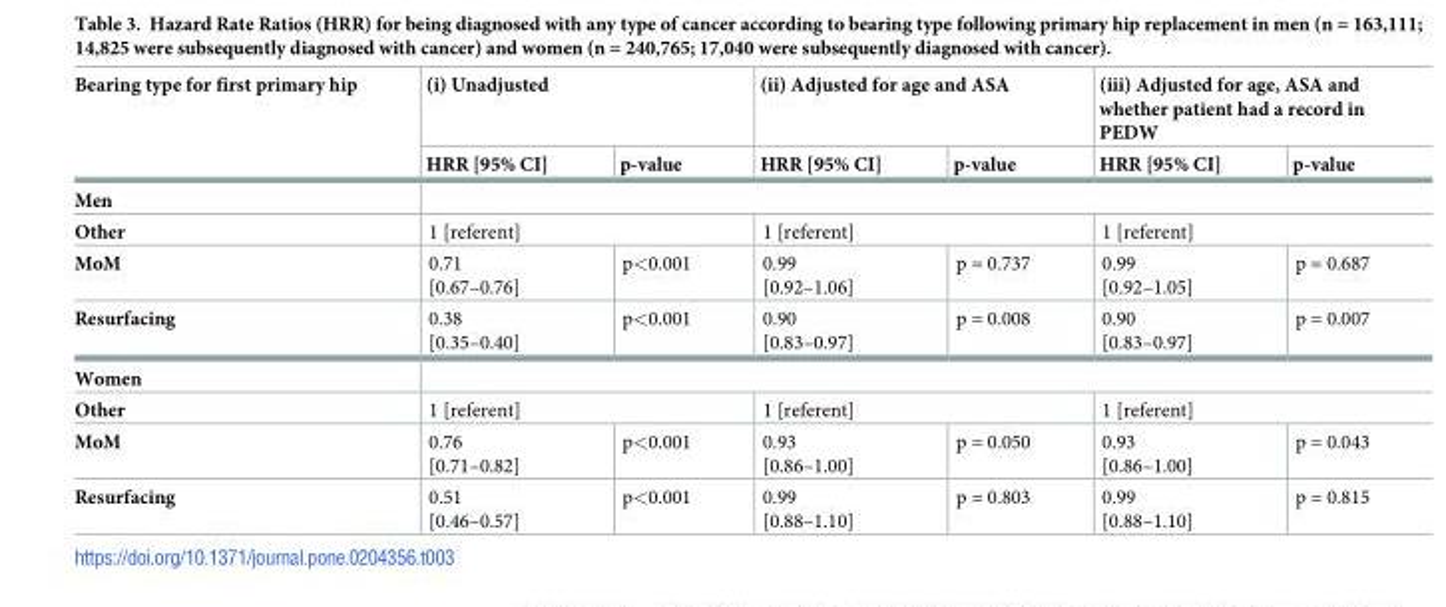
<table><thead><tr><td rowspan="2">Bearing type for first primary hip</td><td colspan="2">(i) Unadjusted</td><td colspan="2">(ii) Adjusted for age and ASA</td><td colspan="2">(iii) Adjusted for age, ASA and whether patient had a record in PEDW</td></tr><tr><td>HRR [95% CI]</td><td>p-value</td><td>HRR [95% CI]</td><td>p-value</td><td>HRR [95% CI]</td><td>p-value</td></tr></thead><tbody><tr><td colspan="7">Men</td></tr><tr><td>Other</td><td colspan="2">1 [referent]</td><td colspan="2">1 [referent]</td><td colspan="2">1 [referent]</td></tr><tr><td>MoM</td><td>0.71 [0.67–0.76]</td><td>p&lt;0.001</td><td>0.99 [0.92–1.06]</td><td>p = 0.737</td><td>0.99 [0.92–1.05]</td><td>p = 0.687</td></tr><tr><td>Resurfacing</td><td>0.38 [0.35–0.40]</td><td>p&lt;0.001</td><td>0.90 [0.83–0.97]</td><td>p = 0.008</td><td>0.90 [0.83–0.97]</td><td>p = 0.007</td></tr><tr><td colspan="7">Women</td></tr><tr><td>Other</td><td colspan="2">1 [referent]</td><td colspan="2">1 [referent]</td><td colspan="2">1 [referent]</td></tr><tr><td>MoM</td><td>0.76 [0.71–0.82]</td><td>p&lt;0.001</td><td>0.93 [0.86–1.00]</td><td>p = 0.050</td><td>0.93 [0.86–1.00]</td><td>p = 0.043</td></tr><tr><td>Resurfacing</td><td>0.51 [0.46–0.57]</td><td>p&lt;0.001</td><td>0.99 [0.88–1.10]</td><td>p = 0.803</td><td>0.99 [0.88–1.10]</td><td>p = 0.815</td></tr></tbody></table>